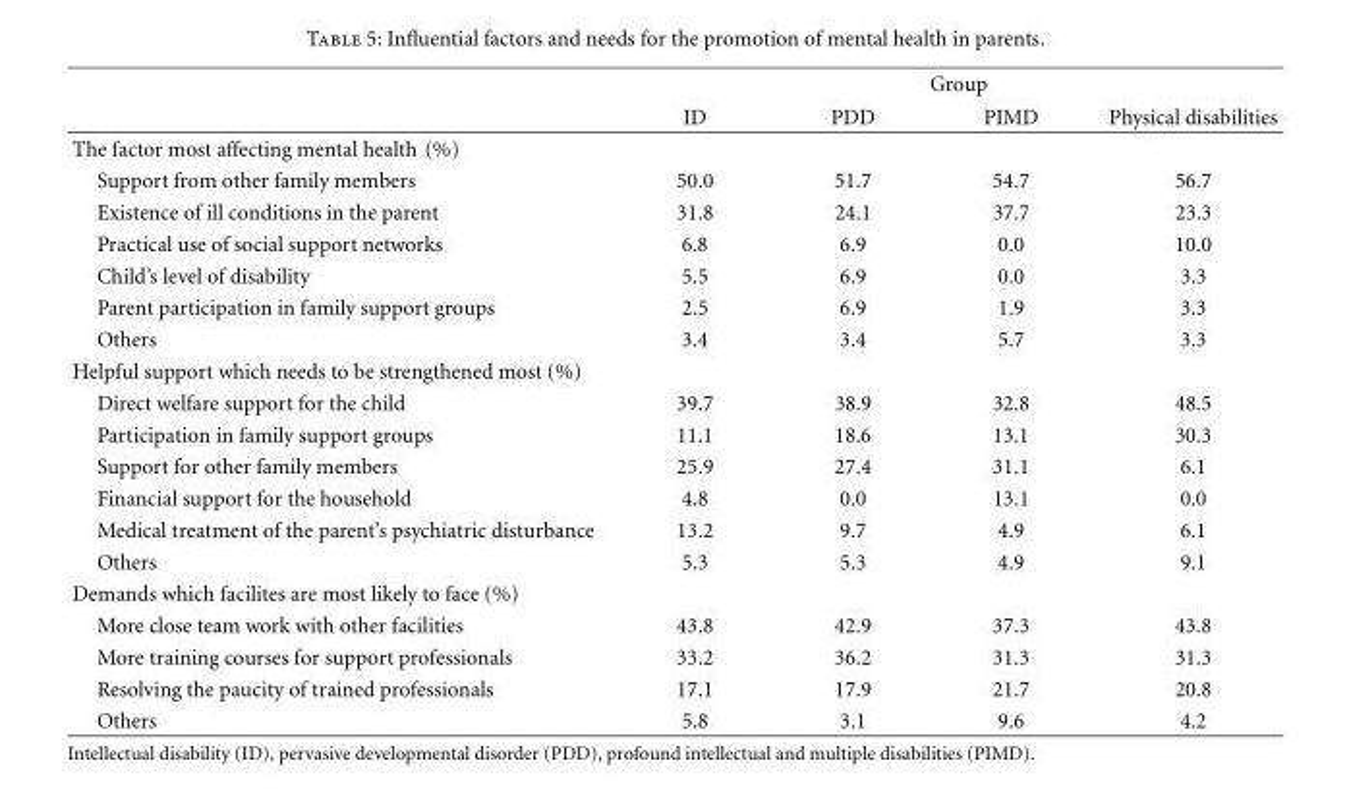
<table><thead><tr><td rowspan="2"></td><td colspan="4">Group</td></tr><tr><td>ID</td><td>PDD</td><td>PIMD</td><td>Physical disabilities</td></tr></thead><tbody><tr><td colspan="5">The factor most affecting mental health (%)</td></tr><tr><td>Support from other family members</td><td>50.0</td><td>51.7</td><td>54.7</td><td>56.7</td></tr><tr><td>Existence of ill conditions in the parent</td><td>31.8</td><td>24.1</td><td>37.7</td><td>23.3</td></tr><tr><td>Practical use of social support networks</td><td>6.8</td><td>6.9</td><td>0.0</td><td>10.0</td></tr><tr><td>Child’s level of disability</td><td>5.5</td><td>6.9</td><td>0.0</td><td>3.3</td></tr><tr><td>Parent participation in family support groups</td><td>2.5</td><td>6.9</td><td>1.9</td><td>3.3</td></tr><tr><td>Others</td><td>3.4</td><td>3.4</td><td>5.7</td><td>3.3</td></tr><tr><td colspan="5">Helpful support which needs to be strengthened most (%)</td></tr><tr><td>Direct welfare support for the child</td><td>39.7</td><td>38.9</td><td>32.8</td><td>48.5</td></tr><tr><td>Participation in family support groups</td><td>11.1</td><td>18.6</td><td>13.1</td><td>30.3</td></tr><tr><td>Support for other family members</td><td>25.9</td><td>27.4</td><td>31.1</td><td>6.1</td></tr><tr><td>Financial support for the household</td><td>4.8</td><td>0.0</td><td>13.1</td><td>0.0</td></tr><tr><td>Medical treatment of the parent’s psychiatric disturbance</td><td>13.2</td><td>9.7</td><td>4.9</td><td>6.1</td></tr><tr><td>Others</td><td>5.3</td><td>5.3</td><td>4.9</td><td>9.1</td></tr><tr><td colspan="5">Demands which facilites are most likely to face (%)</td></tr><tr><td>More close team work with other facilities</td><td>43.8</td><td>42.9</td><td>37.3</td><td>43.8</td></tr><tr><td>More training courses for support professionals</td><td>33.2</td><td>36.2</td><td>31.3</td><td>31.3</td></tr><tr><td>Resolving the paucity of trained professionals</td><td>17.1</td><td>17.9</td><td>21.7</td><td>20.8</td></tr><tr><td>Others</td><td>5.8</td><td>3.1</td><td>9.6</td><td>4.2</td></tr></tbody></table>